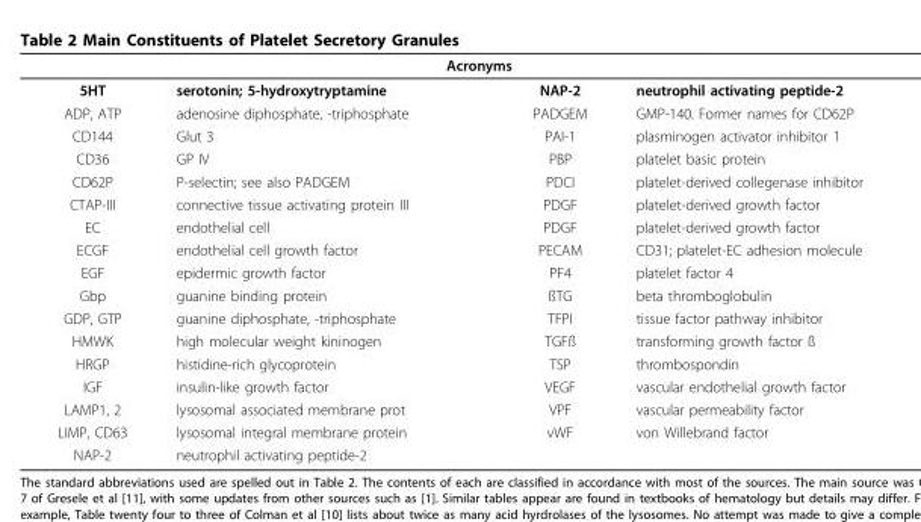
<table><thead><tr><td colspan="4">Acronyms</td></tr><tr><td>5HT</td><td>serotonin; 5-hydroxytryptamine</td><td>NAP-2</td><td>neutrophil activating peptide-2</td></tr></thead><tbody><tr><td>ADP, ATP</td><td>adenosine diphosphate, -triphosphate</td><td>PADGEM</td><td>GMP-140. Former names for CD62P</td></tr><tr><td>CD144</td><td>Glut 3</td><td>PAI-1</td><td>plasminogen activator inhibitor 1</td></tr><tr><td>CD36</td><td>GP IV</td><td>PBP</td><td>platelet basic protein</td></tr><tr><td>CD62P</td><td>P-selectin; see also PADGEM</td><td>PDCI</td><td>platelet-derived collegenase inhibitor</td></tr><tr><td>CTAP-III</td><td>connective tissue activating protein III</td><td>PDGF</td><td>platelet-derived growth factor</td></tr><tr><td>EC</td><td>endothelial cell</td><td>PDGF</td><td>platelet-derived growth factor</td></tr><tr><td>ECGF</td><td>endothelial cell growth factor</td><td>PECAM</td><td>CD31; platelet-EC adhesion molecule</td></tr><tr><td>EGF</td><td>epidermic growth factor</td><td>PF4</td><td>platelet factor 4</td></tr><tr><td>Gbp</td><td>guanine binding protein</td><td>ßTG</td><td>beta thromboglobulin</td></tr><tr><td>GDP, GTP</td><td>guanine diphosphate, -triphosphate</td><td>TFPI</td><td>tissue factor pathway inhibitor</td></tr><tr><td>HMWK</td><td>high molecular weight kininogen</td><td>TGFß</td><td>transforming growth factor ß</td></tr><tr><td>HRGP</td><td>histidine-rich glycoprotein</td><td>TSP</td><td>thrombospondin</td></tr><tr><td>IGF</td><td>insulin-like growth factor</td><td>VEGF</td><td>vascular endothelial growth factor</td></tr><tr><td>LAMP1, 2</td><td>lysosomal associated membrane prot</td><td>VPF</td><td>vascular permeability factor</td></tr><tr><td>LIMP, CD63</td><td>lysosomal integral membrane protein</td><td>vWF</td><td>von Willebrand factor</td></tr><tr><td>NAP-2</td><td>neutrophil activating peptide-2</td><td></td><td></td></tr></tbody></table>